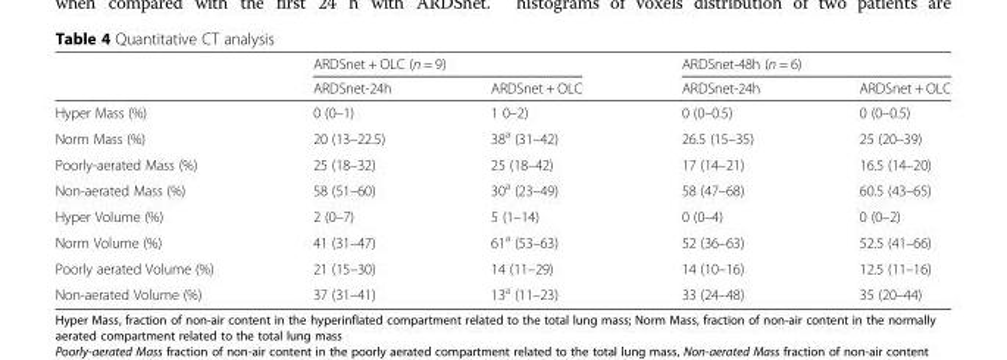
<table><thead><tr><td rowspan="2"></td><td colspan="2">ARDSnet + OLC (n = 9)</td><td colspan="2">ARDSnet-48h (n = 6)</td></tr><tr><td>ARDSnet-24h</td><td>ARDSnet + OLC</td><td>ARDSnet-24h</td><td>ARDSnet + OLC</td></tr></thead><tbody><tr><td>Hyper Mass (%)</td><td>0 (0–1)</td><td>1 0–2)</td><td>0 (0–0.5)</td><td>0 (0–0.5)</td></tr><tr><td>Norm Mass (%)</td><td>20 (13–22.5)</td><td>38<sup>a</sup> (31–42)</td><td>26.5 (15–35)</td><td>25 (20–39)</td></tr><tr><td>Poorly-aerated Mass (%)</td><td>25 (18–32)</td><td>25 (18–42)</td><td>17 (14–21)</td><td>16.5 (14–20)</td></tr><tr><td>Non-aerated Mass (%)</td><td>58 (51–60)</td><td>30<sup>a</sup> (23–49)</td><td>58 (47–68)</td><td>60.5 (43–65)</td></tr><tr><td>Hyper Volume (%)</td><td>2 (0–7)</td><td>5 (1–14)</td><td>0 (0–4)</td><td>0 (0–2)</td></tr><tr><td>Norm Volume (%)</td><td>41 (31–47)</td><td>61<sup>a</sup> (53–63)</td><td>52 (36–63)</td><td>52.5 (41–66)</td></tr><tr><td>Poorly aerated Volume (%)</td><td>21 (15–30)</td><td>14 (11–29)</td><td>14 (10–16)</td><td>12.5 (11–16)</td></tr><tr><td>Non-aerated Volume (%)</td><td>37 (31–41)</td><td>13<sup>a</sup> (11–23)</td><td>33 (24–48)</td><td>35 (20–44)</td></tr></tbody></table>